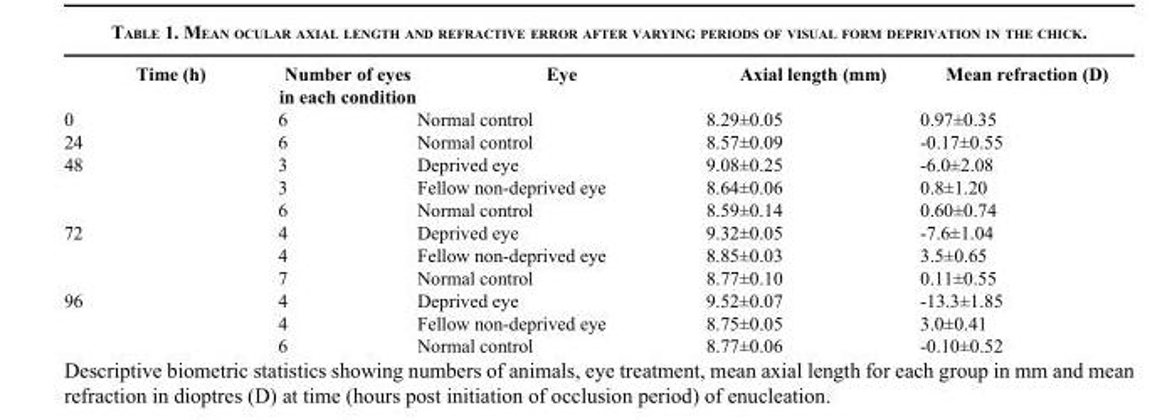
<table><thead><tr><td>Time (h)</td><td>Number of eyes in each condition</td><td>Eye</td><td>Axial length (mm)</td><td>Mean refraction (D)</td></tr></thead><tbody><tr><td>0</td><td>6</td><td>Normal control</td><td>8.29±0.05</td><td>0.97±0.35</td></tr><tr><td>24</td><td>6</td><td>Normal control</td><td>8.57±0.09</td><td>-0.17±0.55</td></tr><tr><td rowspan="3">48</td><td>3</td><td>Deprived eye</td><td>9.08±0.25</td><td>-6.0±2.08</td></tr><tr><td>3</td><td>Fellow non-deprived eye</td><td>8.64±0.06</td><td>0.8±1.20</td></tr><tr><td>6</td><td>Normal control</td><td>8.59±0.14</td><td>0.60±0.74</td></tr><tr><td rowspan="3">72</td><td>4</td><td>Deprived eye</td><td>9.32±0.05</td><td>-7.6±1.04</td></tr><tr><td>4</td><td>Fellow non-deprived eye</td><td>8.85±0.03</td><td>3.5±0.65</td></tr><tr><td>7</td><td>Normal control</td><td>8.77±0.10</td><td>0.11±0.55</td></tr><tr><td rowspan="3">96</td><td>4</td><td>Deprived eye</td><td>9.52±0.07</td><td>-13.3±1.85</td></tr><tr><td>4</td><td>Fellow non-deprived eye</td><td>8.75±0.05</td><td>3.0±0.41</td></tr><tr><td>6</td><td>Normal control</td><td>8.77±0.06</td><td>-0.10±0.52</td></tr></tbody></table>